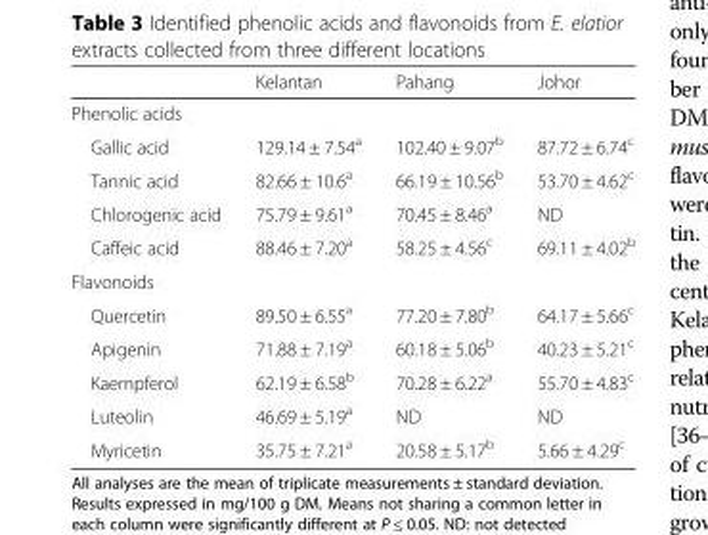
<table><thead><tr><td></td><td>Kelantan</td><td>Pahang</td><td>Johor</td></tr></thead><tbody><tr><td colspan="4">Phenolic acids</td></tr><tr><td>Gallic acid</td><td>129.14 ± 7.54<sup>a</sup></td><td>102.40 ± 9.07<sup>b</sup></td><td>87.72 ± 6.74<sup>c</sup></td></tr><tr><td>Tannic acid</td><td>82.66 ± 10.6<sup>a</sup></td><td>66.19 ± 10.56<sup>b</sup></td><td>53.70 ± 4.62<sup>c</sup></td></tr><tr><td>Chlorogenic acid</td><td>75.79 ± 9.61<sup>a</sup></td><td>70.45 ± 8.46<sup>a</sup></td><td>ND</td></tr><tr><td>Caffeic acid</td><td>88.46 ± 7.20<sup>a</sup></td><td>58.25 ± 4.56<sup>c</sup></td><td>69.11 ± 4.02<sup>b</sup></td></tr><tr><td colspan="4">Flavonoids</td></tr><tr><td>Quercetin</td><td>89.50 ± 6.55<sup>a</sup></td><td>77.20 ± 7.80<sup>b</sup></td><td>64.17 ± 5.66<sup>c</sup></td></tr><tr><td>Apigenin</td><td>71.88 ± 7.19<sup>a</sup></td><td>60.18 ± 5.06<sup>b</sup></td><td>40.23 ± 5.21<sup>c</sup></td></tr><tr><td>Kaempferol</td><td>62.19 ± 6.58<sup>b</sup></td><td>70.28 ± 6.22<sup>a</sup></td><td>55.70 ± 4.83<sup>c</sup></td></tr><tr><td>Luteolin</td><td>46.69 ± 5.19<sup>a</sup></td><td>ND</td><td>ND</td></tr><tr><td>Myricetin</td><td>35.75 ± 7.21<sup>a</sup></td><td>20.58 ± 5.17<sup>b</sup></td><td>5.66 ± 4.29<sup>c</sup></td></tr></tbody></table>